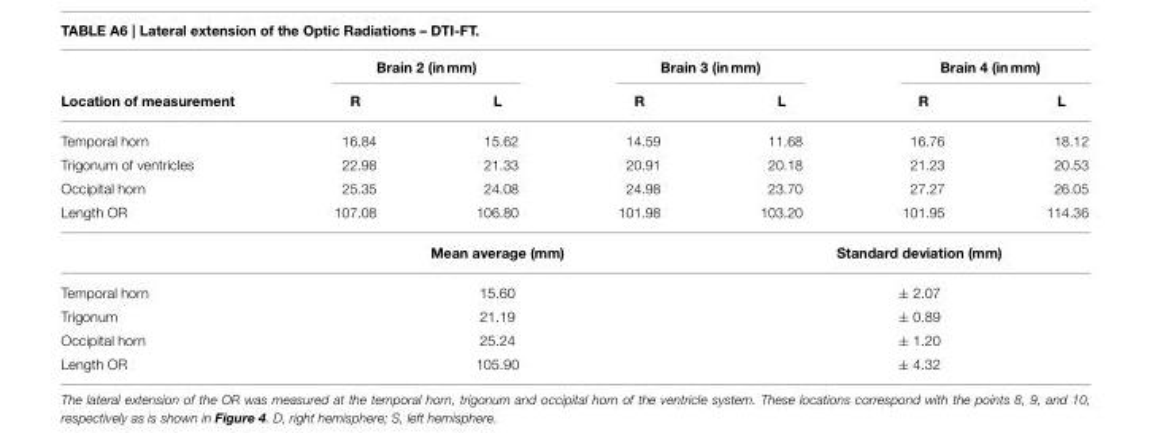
<table><thead><tr><td rowspan="2">Location of measurement</td><td colspan="2">Brain 2 (in mm)</td><td colspan="2">Brain 3 (in mm)</td><td colspan="2">Brain 4 (in mm)</td></tr><tr><td>R</td><td>L</td><td>R</td><td>L</td><td>R</td><td>L</td></tr></thead><tbody><tr><td>Temporal horn</td><td>16.84</td><td>15.62</td><td>14.59</td><td>11.68</td><td>16.76</td><td>18.12</td></tr><tr><td>Trigonum of ventricles</td><td>22.98</td><td>21.33</td><td>20.91</td><td>20.18</td><td>21.23</td><td>20.53</td></tr><tr><td>Occipital horn</td><td>25.35</td><td>24.08</td><td>24.98</td><td>23.70</td><td>27.27</td><td>26.05</td></tr><tr><td rowspan="2">Length OR</td><td>107.08</td><td>106.80</td><td>101.98</td><td>103.20</td><td>101.95</td><td>114.36</td></tr><tr><td colspan="3">Mean average (mm)</td><td colspan="3">Standard deviation (mm)</td></tr><tr><td>Temporal horn</td><td colspan="3">15.60</td><td colspan="3">± 2.07</td></tr><tr><td>Trigonum</td><td colspan="3">21.19</td><td colspan="3">± 0.89</td></tr><tr><td>Occipital horn</td><td colspan="3">25.24</td><td colspan="3">± 1.20</td></tr><tr><td>Length OR</td><td colspan="3">105.90</td><td colspan="3">± 4.32</td></tr></tbody></table>